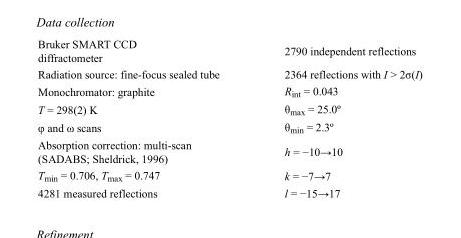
<table><tbody><tr><td>Bruker SMART CCD diffractometer</td><td>2790 independent reflections</td></tr><tr><td>Radiation source: fine-focus sealed tube</td><td>2364 reflections with I &gt; 2σ(I)</td></tr><tr><td>Monochromator: graphite</td><td>R<sub>int</sub> = 0.043</td></tr><tr><td>T = 298(2) K</td><td>θ<sub>max</sub> = 25.0º</td></tr><tr><td>φ and ω scans</td><td>θ<sub>min</sub> = 2.3º</td></tr><tr><td>Absorption correction: multi-scan (SADABS; Sheldrick, 1996)</td><td>h = −10→10</td></tr><tr><td>T<sub>min</sub> = 0.706, T<sub>max</sub> = 0.747</td><td>k = −7→7</td></tr><tr><td>4281 measured reflections</td><td>l = −15→17</td></tr></tbody></table>